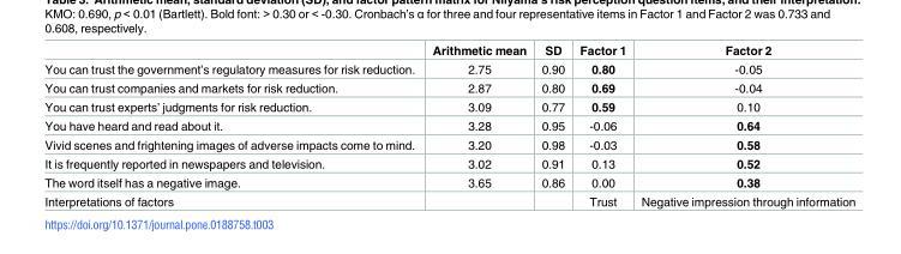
<table><thead><tr><td></td><td>Arithmetic mean</td><td>SD</td><td>Factor 1</td><td>Factor 2</td></tr></thead><tbody><tr><td>You can trust the government’s regulatory measures for risk reduction.</td><td>2.75</td><td>0.90</td><td>0.80</td><td>-0.05</td></tr><tr><td>You can trust companies and markets for risk reduction.</td><td>2.87</td><td>0.80</td><td>0.69</td><td>-0.04</td></tr><tr><td>You can trust experts’ judgments for risk reduction.</td><td>3.09</td><td>0.77</td><td>0.59</td><td>0.10</td></tr><tr><td>You have heard and read about it.</td><td>3.28</td><td>0.95</td><td>-0.06</td><td>0.64</td></tr><tr><td>Vivid scenes and frightening images of adverse impacts come to mind.</td><td>3.20</td><td>0.98</td><td>-0.03</td><td>0.58</td></tr><tr><td>It is frequently reported in newspapers and television.</td><td>3.02</td><td>0.91</td><td>0.13</td><td>0.52</td></tr><tr><td>The word itself has a negative image.</td><td>3.65</td><td>0.86</td><td>0.00</td><td>0.38</td></tr><tr><td>Interpretations of factors</td><td></td><td></td><td>Trust</td><td>Negative impression through information</td></tr></tbody></table>